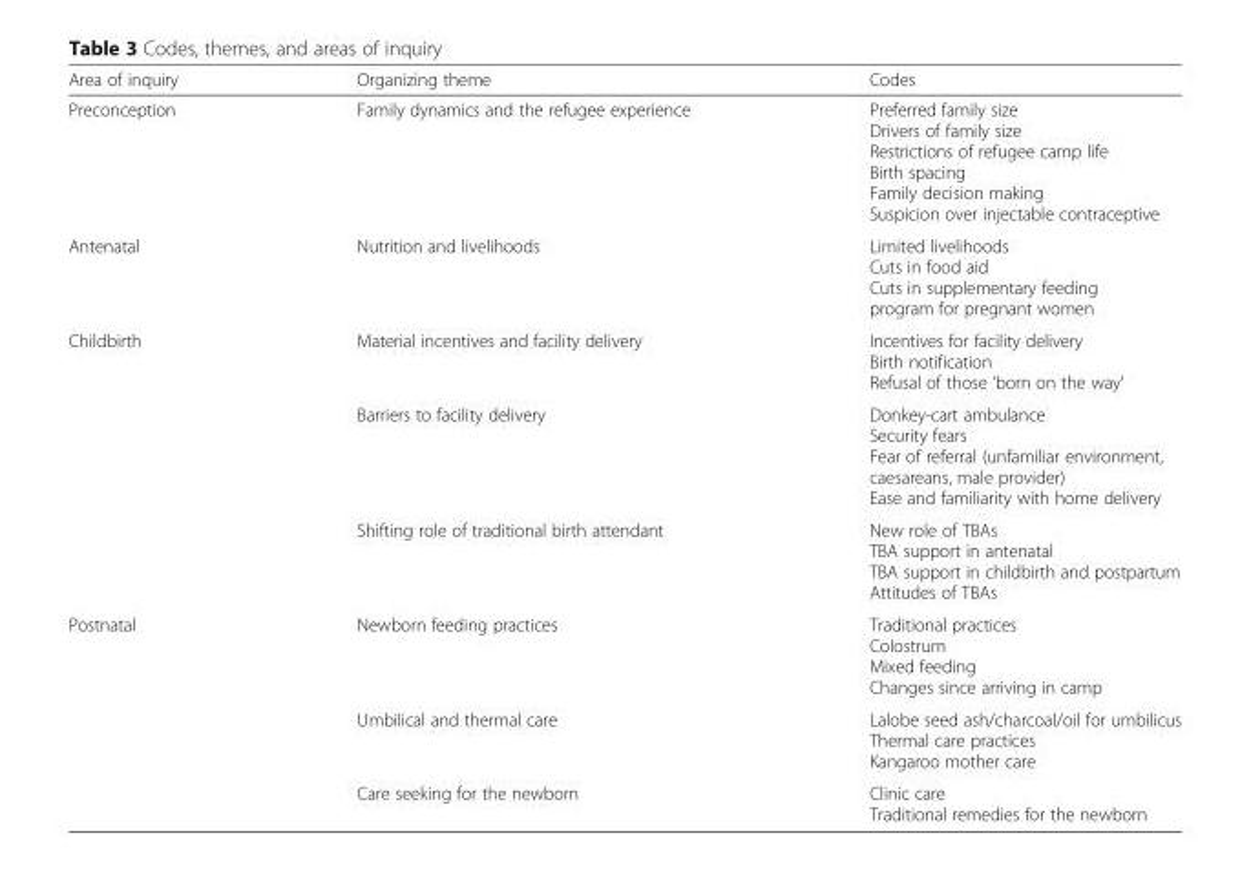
<table><thead><tr><td>Area of inquiry</td><td>Organizing theme</td><td>Codes</td></tr></thead><tbody><tr><td>Preconception</td><td>Family dynamics and the refugee experience</td><td>Preferred family size Drivers of family size Restrictions of refugee camp life Birth spacing Family decision making Suspicion over injectable contraceptive</td></tr><tr><td>Antenatal</td><td>Nutrition and livelihoods</td><td>Limited livelihoods Cuts in food aid Cuts in supplementary feeding program for pregnant women</td></tr><tr><td rowspan="3">Childbirth</td><td>Material incentives and facility delivery</td><td>Incentives for facility delivery Birth notification Refusal of those ‘born on the way’</td></tr><tr><td>Barriers to facility delivery</td><td>Donkey-cart ambulance Security fears Fear of referral (unfamiliar environment, caesareans, male provider) Ease and familiarity with home delivery</td></tr><tr><td>Shifting role of traditional birth attendant</td><td>New role of TBAs TBA support in antenatal TBA support in childbirth and postpartum Attitudes of TBAs</td></tr><tr><td rowspan="3">Postnatal</td><td>Newborn feeding practices</td><td>Traditional practices Colostrum Mixed feeding Changes since arriving in camp</td></tr><tr><td>Umbilical and thermal care</td><td>Lalobe seed ash/charcoal/oil for umbilicus Thermal care practices Kangaroo mother care</td></tr><tr><td>Care seeking for the newborn</td><td>Clinic care Traditional remedies for the newborn</td></tr></tbody></table>